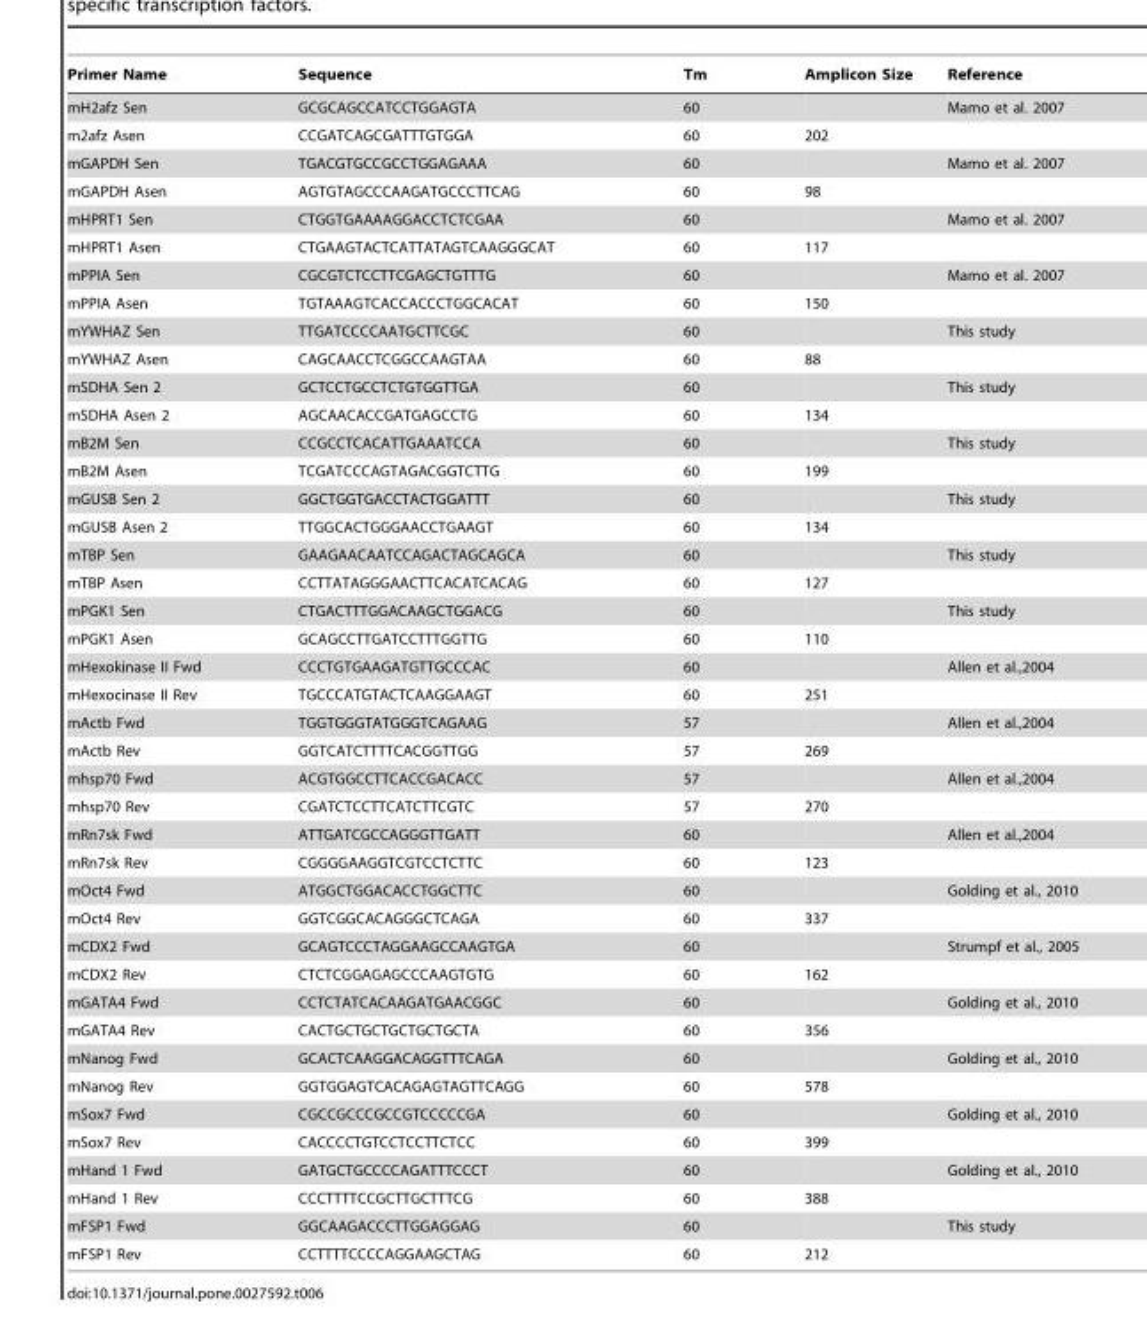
<table><thead><tr><td>Primer Name</td><td>Sequence</td><td>Tm</td><td>Amplicon Size</td><td>Reference</td></tr></thead><tbody><tr><td>mH2afz Sen</td><td>GCGCAGCCATCCTGGAGTA</td><td>60</td><td></td><td>Mamo et al. 2007</td></tr><tr><td>m2afz Asen</td><td>CCGATCAGCGATTTGTGGA</td><td>60</td><td>202</td><td></td></tr><tr><td>mGAPDH Sen</td><td>TGACGTGCCGCCTGGAGAAA</td><td>60</td><td></td><td>Mamo et al. 2007</td></tr><tr><td>mGAPDH Asen</td><td>AGTGTAGCCCAAGATGCCCTTCAG</td><td>60</td><td>98</td><td></td></tr><tr><td>mHPRT1 Sen</td><td>CTGGTGAAAAGGACCTCTCGAA</td><td>60</td><td></td><td>Mamo et al. 2007</td></tr><tr><td>mHPRT1 Asen</td><td>CTGAAGTACTCATTATAGTCAAGGGCAT</td><td>60</td><td>117</td><td></td></tr><tr><td>mPPIA Sen</td><td>CGCGTCTCCTTCGAGCTGTTTG</td><td>60</td><td></td><td>Mamo et al. 2007</td></tr><tr><td>mPPIA Asen</td><td>TGTAAAGTCACCACCCTGGCACAT</td><td>60</td><td>150</td><td></td></tr><tr><td>mYWHAZ Sen</td><td>TTGATCCCCAATGCTTCGC</td><td>60</td><td></td><td>This study</td></tr><tr><td>mYWHAZ Asen</td><td>CAGCAACCTCGGCCAAGTAA</td><td>60</td><td>88</td><td></td></tr><tr><td>mSDHA Sen 2</td><td>GCTCCTGCCTCTGTGGTTGA</td><td>60</td><td></td><td>This study</td></tr><tr><td>mSDHA Asen 2</td><td>AGCAACACCGATGAGCCTG</td><td>60</td><td>134</td><td></td></tr><tr><td>mB2M Sen</td><td>CCGCCTCACATTGAAATCCA</td><td>60</td><td></td><td>This study</td></tr><tr><td>mB2M Asen</td><td>TCGATCCCAGTAGACGGTCTTG</td><td>60</td><td>199</td><td></td></tr><tr><td>mGUSB Sen 2</td><td>GGCTGGTGACCTACTGGATTT</td><td>60</td><td></td><td>This study</td></tr><tr><td>mGUSB Asen 2</td><td>TTGGCACTGGGAACCTGAAGT</td><td>60</td><td>134</td><td></td></tr><tr><td>mTBP Sen</td><td>GAAGAACAATCCAGACTAGCAGCA</td><td>60</td><td></td><td>This study</td></tr><tr><td>mTBP Asen</td><td>CCTTATAGGGAACTTCACATCACAG</td><td>60</td><td>127</td><td></td></tr><tr><td>mPGK1 Sen</td><td>CTGACTTTGGACAAGCTGGACG</td><td>60</td><td></td><td>This study</td></tr><tr><td>mPGK1 Asen</td><td>GCAGCCTTGATCCTTTGGTTG</td><td>60</td><td>110</td><td></td></tr><tr><td>mHexokinase II Fwd</td><td>CCCTGTGAAGATGTTGCCCAC</td><td>60</td><td></td><td>Allen et al.,2004</td></tr><tr><td>mHexocinase II Rev</td><td>TGCCCATGTACTCAAGGAAGT</td><td>60</td><td>251</td><td></td></tr><tr><td>mActb Fwd</td><td>TGGTGGGTATGGGTCAGAAG</td><td>57</td><td></td><td>Allen et al.,2004</td></tr><tr><td>mActb Rev</td><td>GGTCATCTTTTCACGGTTGG</td><td>57</td><td>269</td><td></td></tr><tr><td>mhsp70 Fwd</td><td>ACGTGGCCTTCACCGACACC</td><td>57</td><td></td><td>Allen et al.,2004</td></tr><tr><td>mhsp70 Rev</td><td>CGATCTCCTTCATCTTCGTC</td><td>57</td><td>270</td><td></td></tr><tr><td>mRn7sk Fwd</td><td>ATTGATCGCCAGGGTTGATT</td><td>60</td><td></td><td>Allen et al.,2004</td></tr><tr><td>mRn7sk Rev</td><td>CGGGGAAGGTCGTCCTCTTC</td><td>60</td><td>123</td><td></td></tr><tr><td>mOct4 Fwd</td><td>ATGGCTGGACACCTGGCTTC</td><td>60</td><td></td><td>Golding et al., 2010</td></tr><tr><td>mOct4 Rev</td><td>GGTCGGCACAGGGCTCAGA</td><td>60</td><td>337</td><td></td></tr><tr><td>mCDX2 Fwd</td><td>GCAGTCCCTAGGAAGCCAAGTGA</td><td>60</td><td></td><td>Strumpf et al., 2005</td></tr><tr><td>mCDX2 Rev</td><td>CTCTCGGAGAGCCCAAGTGTG</td><td>60</td><td>162</td><td></td></tr><tr><td>mGATA4 Fwd</td><td>CCTCTATCACAAGATGAACGGC</td><td>60</td><td></td><td>Golding et al., 2010</td></tr><tr><td>mGATA4 Rev</td><td>CACTGCTGCTGCTGCTGCTA</td><td>60</td><td>356</td><td></td></tr><tr><td>mNanog Fwd</td><td>GCACTCAAGGACAGGTTTCAGA</td><td>60</td><td></td><td>Golding et al., 2010</td></tr><tr><td>mNanog Rev</td><td>GGTGGAGTCACAGAGTAGTTCAGG</td><td>60</td><td>578</td><td></td></tr><tr><td>mSox7 Fwd</td><td>CGCCGCCCGCCGTCCCCCGA</td><td>60</td><td></td><td>Golding et al., 2010</td></tr><tr><td>mSox7 Rev</td><td>CACCCCTGTCCTCCTTCTCC</td><td>60</td><td>399</td><td></td></tr><tr><td>mHand 1 Fwd</td><td>GATGCTGCCCCAGATTTCCCT</td><td>60</td><td></td><td>Golding et al., 2010</td></tr><tr><td>mHand 1 Rev</td><td>CCCTTTTCCGCTTGCTTTCG</td><td>60</td><td>388</td><td></td></tr><tr><td>mFSP1 Fwd</td><td>GGCAAGACCCTTGGAGGAG</td><td>60</td><td></td><td>This study</td></tr><tr><td>mFSP1 Rev</td><td>CCTTTTCCCCAGGAAGCTAG</td><td>60</td><td>212</td><td></td></tr></tbody></table>